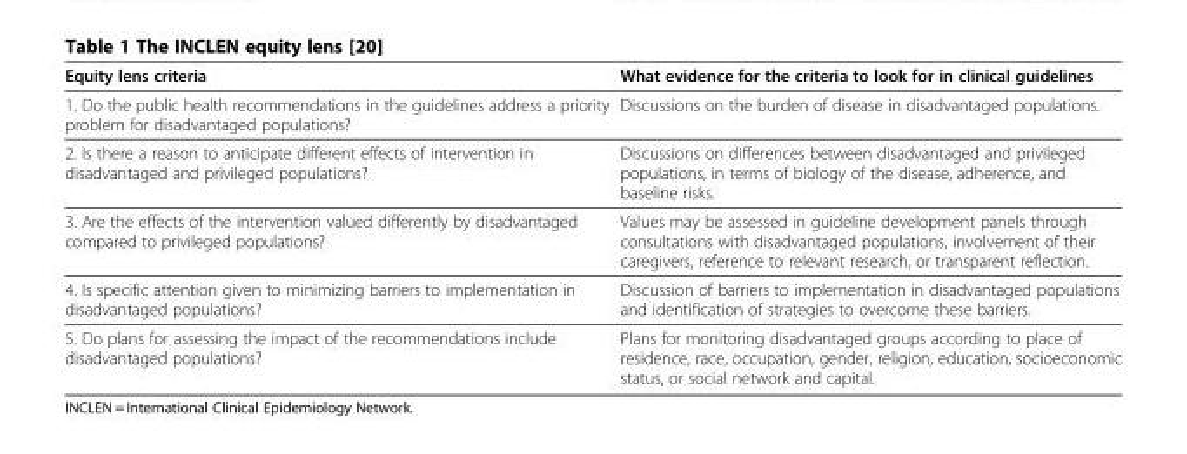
<table><thead><tr><td>Equity lens criteria</td><td>What evidence for the criteria to look for in clinical guidelines</td></tr></thead><tbody><tr><td>1. Do the public health recommendations in the guidelines address a priority problem for disadvantaged populations?</td><td>Discussions on the burden of disease in disadvantaged populations.</td></tr><tr><td>2. Is there a reason to anticipate different effects of intervention in disadvantaged and privileged populations?</td><td>Discussions on differences between disadvantaged and privileged populations, in terms of biology of the disease, adherence, and baseline risks.</td></tr><tr><td>3. Are the effects of the intervention valued differently by disadvantaged compared to privileged populations?</td><td>Values may be assessed in guideline development panels through consultations with disadvantaged populations, involvement of their caregivers, reference to relevant research, or transparent reflection.</td></tr><tr><td>4. Is specific attention given to minimizing barriers to implementation in disadvantaged populations?</td><td>Discussion of barriers to implementation in disadvantaged populations and identification of strategies to overcome these barriers.</td></tr><tr><td>5. Do plans for assessing the impact of the recommendations include disadvantaged populations?</td><td>Plans for monitoring disadvantaged groups according to place of residence, race, occupation, gender, religion, education, socioeconomic status, or social network and capital.</td></tr></tbody></table>